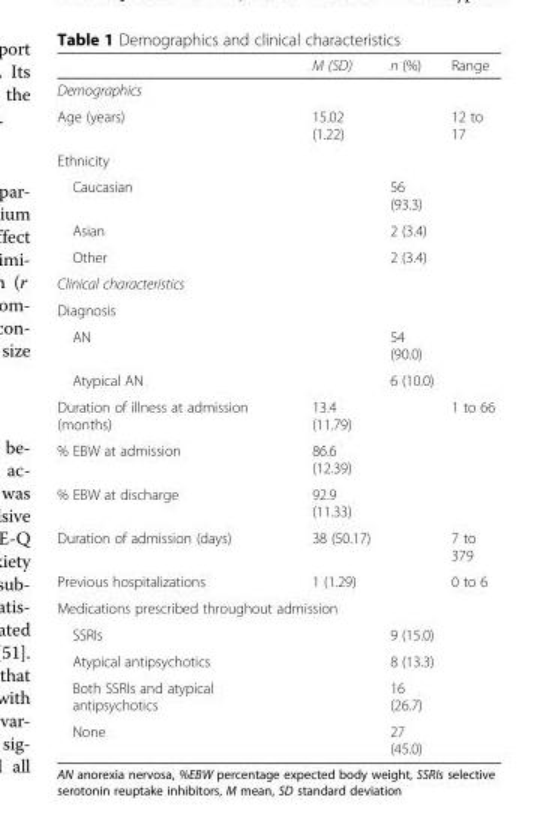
<table><thead><tr><td></td><td>M (SD)</td><td>n (%)</td><td>Range</td></tr></thead><tbody><tr><td colspan="4">Demographics</td></tr><tr><td>Age (years)</td><td>15.02 (1.22)</td><td></td><td>12 to 17</td></tr><tr><td colspan="4">Ethnicity</td></tr><tr><td>Caucasian</td><td></td><td>56 (93.3)</td><td></td></tr><tr><td>Asian</td><td></td><td>2 (3.4)</td><td></td></tr><tr><td>Other</td><td></td><td>2 (3.4)</td><td></td></tr><tr><td colspan="4">Clinical characteristics</td></tr><tr><td colspan="4">Diagnosis</td></tr><tr><td>AN</td><td></td><td>54 (90.0)</td><td></td></tr><tr><td>Atypical AN</td><td></td><td>6 (10.0)</td><td></td></tr><tr><td>Duration of illness at admission (months)</td><td>13.4 (11.79)</td><td></td><td>1 to 66</td></tr><tr><td>% EBW at admission</td><td>86.6 (12.39)</td><td></td><td></td></tr><tr><td>% EBW at discharge</td><td>92.9 (11.33)</td><td></td><td></td></tr><tr><td>Duration of admission (days)</td><td>38 (50.17)</td><td></td><td>7 to 379</td></tr><tr><td>Previous hospitalizations</td><td>1 (1.29)</td><td></td><td>0 to 6</td></tr><tr><td colspan="4">Medications prescribed throughout admission</td></tr><tr><td>SSRIs</td><td></td><td>9 (15.0)</td><td></td></tr><tr><td>Atypical antipsychotics</td><td></td><td>8 (13.3)</td><td></td></tr><tr><td>Both SSRIs and atypical antipsychotics</td><td></td><td>16 (26.7)</td><td></td></tr><tr><td>None</td><td></td><td>27 (45.0)</td><td></td></tr></tbody></table>